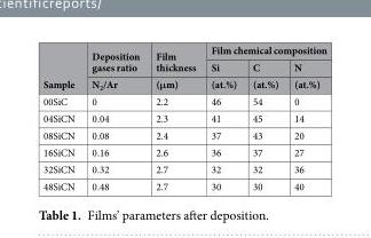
<table><thead><tr><td rowspan="3">Sample</td><td rowspan="3">Deposition gases ratio N<sub>2</sub>/Ar</td><td rowspan="3">Film thickness (μm)</td><td colspan="3">Film chemical composition</td></tr><tr><td rowspan="2">Si (at.%)</td><td rowspan="2">C (at.%)</td><td rowspan="2">N (at.%)</td></tr><tr></tr></thead><tbody><tr><td>00SiC</td><td>0</td><td>2.2</td><td>46</td><td>54</td><td>0</td></tr><tr><td>04SiCN</td><td>0.04</td><td>2.3</td><td>41</td><td>45</td><td>14</td></tr><tr><td>08SiCN</td><td>0.08</td><td>2.4</td><td>37</td><td>43</td><td>20</td></tr><tr><td>16SiCN</td><td>0.16</td><td>2.6</td><td>36</td><td>37</td><td>27</td></tr><tr><td>32SiCN</td><td>0.32</td><td>2.7</td><td>32</td><td>32</td><td>36</td></tr><tr><td>48SiCN</td><td>0.48</td><td>2.7</td><td>30</td><td>30</td><td>40</td></tr></tbody></table>